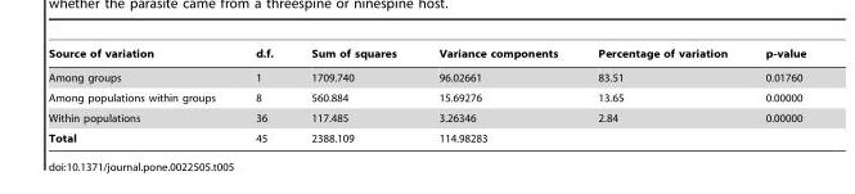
<table><thead><tr><td>Source of variation</td><td>d.f.</td><td>Sum of squares</td><td>Variance components</td><td>Percentage of variation</td><td>p-value</td></tr></thead><tbody><tr><td>Among groups</td><td>1</td><td>1709.740</td><td>96.02661</td><td>83.51</td><td>0.01760</td></tr><tr><td>Among populations within groups</td><td>8</td><td>560.884</td><td>15.69276</td><td>13.65</td><td>0.00000</td></tr><tr><td>Within populations</td><td>36</td><td>117.485</td><td>3.26346</td><td>2.84</td><td>0.00000</td></tr><tr><td>Total</td><td>45</td><td>2388.109</td><td>114.98283</td><td></td><td></td></tr></tbody></table>